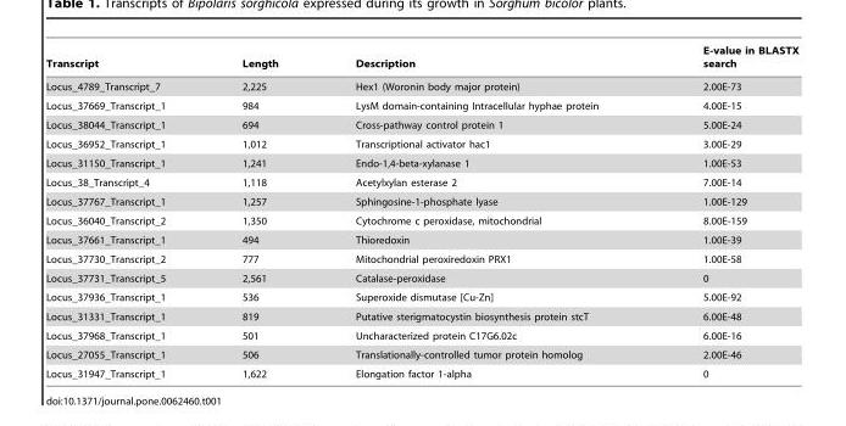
<table><thead><tr><td>Transcript</td><td>Length</td><td>Description</td><td>E-value in BLASTX search</td></tr></thead><tbody><tr><td>Locus_4789_Transcript_7</td><td>2,225</td><td>Hex1 (Woronin body major protein)</td><td>2.00E-73</td></tr><tr><td>Locus_37669_Transcript_1</td><td>984</td><td>LysM domain-containing Intracellular hyphae protein</td><td>4.00E-15</td></tr><tr><td>Locus_38044_Transcript_1</td><td>694</td><td>Cross-pathway control protein 1</td><td>5.00E-24</td></tr><tr><td>Locus_36952_Transcript_1</td><td>1,012</td><td>Transcriptional activator hac1</td><td>3.00E-29</td></tr><tr><td>Locus_31150_Transcript_1</td><td>1,241</td><td>Endo-1,4-beta-xylanase 1</td><td>1.00E-53</td></tr><tr><td>Locus_38_Transcript_4</td><td>1,118</td><td>Acetylxylan esterase 2</td><td>7.00E-14</td></tr><tr><td>Locus_37767_Transcript_1</td><td>1,257</td><td>Sphingosine-1-phosphate lyase</td><td>1.00E-129</td></tr><tr><td>Locus_36040_Transcript_2</td><td>1,350</td><td>Cytochrome c peroxidase, mitochondrial</td><td>8.00E-159</td></tr><tr><td>Locus_37661_Transcript_1</td><td>494</td><td>Thioredoxin</td><td>1.00E-39</td></tr><tr><td>Locus_37730_Transcript_2</td><td>777</td><td>Mitochondrial peroxiredoxin PRX1</td><td>1.00E-58</td></tr><tr><td>Locus_37731_Transcript_5</td><td>2,561</td><td>Catalase-peroxidase</td><td>0</td></tr><tr><td>Locus_37936_Transcript_1</td><td>536</td><td>Superoxide dismutase [Cu-Zn]</td><td>5.00E-92</td></tr><tr><td>Locus_31331_Transcript_1</td><td>819</td><td>Putative sterigmatocystin biosynthesis protein stcT</td><td>6.00E-48</td></tr><tr><td>Locus_37968_Transcript_1</td><td>501</td><td>Uncharacterized protein C17G6.02c</td><td>6.00E-16</td></tr><tr><td>Locus_27055_Transcript_1</td><td>506</td><td>Translationally-controlled tumor protein homolog</td><td>2.00E-46</td></tr><tr><td>Locus_31947_Transcript_1</td><td>1,622</td><td>Elongation factor 1-alpha</td><td>0</td></tr></tbody></table>